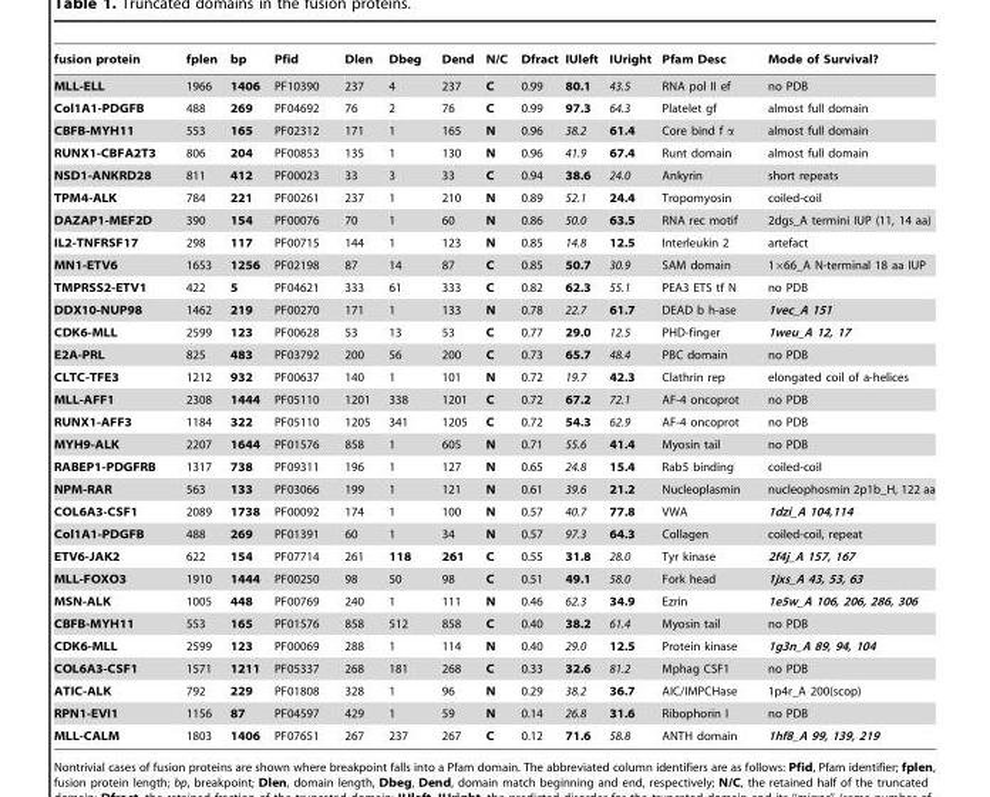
<table><thead><tr><td>fusion protein</td><td>fplen</td><td>bp</td><td>Pfid</td><td>Dlen</td><td>Dbeg</td><td>Dend</td><td>N/C</td><td>Dfract</td><td>IUleft</td><td>IUright</td><td>Pfam Desc</td><td>Mode of Survival?</td></tr></thead><tbody><tr><td>MLL-ELL</td><td>1966</td><td>1406</td><td>PF10390</td><td>237</td><td>4</td><td>237</td><td>C</td><td>0.99</td><td>80.1</td><td>43.5</td><td>RNA pol II ef</td><td>no PDB</td></tr><tr><td>Col1A1-PDGFB</td><td>488</td><td>269</td><td>PF04692</td><td>76</td><td>2</td><td>76</td><td>C</td><td>0.99</td><td>97.3</td><td>64.3</td><td>Platelet gf</td><td>almost full domain</td></tr><tr><td>CBFB-MYH11</td><td>553</td><td>165</td><td>PF02312</td><td>171</td><td>1</td><td>165</td><td>N</td><td>0.96</td><td>38.2</td><td>61.4</td><td>Core bind f α</td><td>almost full domain</td></tr><tr><td>RUNX1-CBFA2T3</td><td>806</td><td>204</td><td>PF00853</td><td>135</td><td>1</td><td>130</td><td>N</td><td>0.96</td><td>41.9</td><td>67.4</td><td>Runt domain</td><td>almost full domain</td></tr><tr><td>NSD1-ANKRD28</td><td>811</td><td>412</td><td>PF00023</td><td>33</td><td>3</td><td>33</td><td>C</td><td>0.94</td><td>38.6</td><td>24.0</td><td>Ankyrin</td><td>short repeats</td></tr><tr><td>TPM4-ALK</td><td>784</td><td>221</td><td>PF00261</td><td>237</td><td>1</td><td>210</td><td>N</td><td>0.89</td><td>52.1</td><td>24.4</td><td>Tropomyosin</td><td>coiled-coil</td></tr><tr><td>DAZAP1-MEF2D</td><td>390</td><td>154</td><td>PF00076</td><td>70</td><td>1</td><td>60</td><td>N</td><td>0.86</td><td>50.0</td><td>63.5</td><td>RNA rec motif</td><td>2dgs_A termini IUP (11, 14 aa)</td></tr><tr><td>IL2-TNFRSF17</td><td>298</td><td>117</td><td>PF00715</td><td>144</td><td>1</td><td>123</td><td>N</td><td>0.85</td><td>14.8</td><td>12.5</td><td>Interleukin 2</td><td>artefact</td></tr><tr><td>MN1-ETV6</td><td>1653</td><td>1256</td><td>PF02198</td><td>87</td><td>14</td><td>87</td><td>C</td><td>0.85</td><td>50.7</td><td>30.9</td><td>SAM domain</td><td>1×66_A N-terminal 18 aa IUP</td></tr><tr><td>TMPRSS2-ETV1</td><td>422</td><td>5</td><td>PF04621</td><td>333</td><td>61</td><td>333</td><td>C</td><td>0.82</td><td>62.3</td><td>55.1</td><td>PEA3 ETS tf N</td><td>no PDB</td></tr><tr><td>DDX10-NUP98</td><td>1462</td><td>219</td><td>PF00270</td><td>171</td><td>1</td><td>133</td><td>N</td><td>0.78</td><td>22.7</td><td>61.7</td><td>DEAD b h-ase</td><td>1vec_A 151</td></tr><tr><td>CDK6-MLL</td><td>2599</td><td>123</td><td>PF00628</td><td>53</td><td>13</td><td>53</td><td>C</td><td>0.77</td><td>29.0</td><td>12.5</td><td>PHD-finger</td><td>1weu_A 12, 17</td></tr><tr><td>E2A-PRL</td><td>825</td><td>483</td><td>PF03792</td><td>200</td><td>56</td><td>200</td><td>C</td><td>0.73</td><td>65.7</td><td>48.4</td><td>PBC domain</td><td>no PDB</td></tr><tr><td>CLTC-TFE3</td><td>1212</td><td>932</td><td>PF00637</td><td>140</td><td>1</td><td>101</td><td>N</td><td>0.72</td><td>19.7</td><td>42.3</td><td>Clathrin rep</td><td>elongated coil of a-helices</td></tr><tr><td>MLL-AFF1</td><td>2308</td><td>1444</td><td>PF05110</td><td>1201</td><td>338</td><td>1201</td><td>C</td><td>0.72</td><td>67.2</td><td>72.1</td><td>AF-4 oncoprot</td><td>no PDB</td></tr><tr><td>RUNX1-AFF3</td><td>1184</td><td>322</td><td>PF05110</td><td>1205</td><td>341</td><td>1205</td><td>C</td><td>0.72</td><td>54.3</td><td>62.9</td><td>AF-4 oncoprot</td><td>no PDB</td></tr><tr><td>MYH9-ALK</td><td>2207</td><td>1644</td><td>PF01576</td><td>858</td><td>1</td><td>605</td><td>N</td><td>0.71</td><td>55.6</td><td>41.4</td><td>Myosin tail</td><td>no PDB</td></tr><tr><td>RABEP1-PDGFRB</td><td>1317</td><td>738</td><td>PF09311</td><td>196</td><td>1</td><td>127</td><td>N</td><td>0.65</td><td>24.8</td><td>15.4</td><td>Rab5 binding</td><td>coiled-coil</td></tr><tr><td>NPM-RAR</td><td>563</td><td>133</td><td>PF03066</td><td>199</td><td>1</td><td>121</td><td>N</td><td>0.61</td><td>39.6</td><td>21.2</td><td>Nucleoplasmin</td><td>nucleophosmin 2p1b_H, 122 aa</td></tr><tr><td>COL6A3-CSF1</td><td>2089</td><td>1738</td><td>PF00092</td><td>174</td><td>1</td><td>100</td><td>N</td><td>0.57</td><td>40.7</td><td>77.8</td><td>VWA</td><td>1dzi_A 104,114</td></tr><tr><td>Col1A1-PDGFB</td><td>488</td><td>269</td><td>PF01391</td><td>60</td><td>1</td><td>34</td><td>N</td><td>0.57</td><td>97.3</td><td>64.3</td><td>Collagen</td><td>coiled-coil, repeat</td></tr><tr><td>ETV6-JAK2</td><td>622</td><td>154</td><td>PF07714</td><td>261</td><td>118</td><td>261</td><td>C</td><td>0.55</td><td>31.8</td><td>28.0</td><td>Tyr kinase</td><td>2f4j_A 157, 167</td></tr><tr><td>MLL-FOXO3</td><td>1910</td><td>1444</td><td>PF00250</td><td>98</td><td>50</td><td>98</td><td>C</td><td>0.51</td><td>49.1</td><td>58.0</td><td>Fork head</td><td>1jxs_A 43, 53, 63</td></tr><tr><td>MSN-ALK</td><td>1005</td><td>448</td><td>PF00769</td><td>240</td><td>1</td><td>111</td><td>N</td><td>0.46</td><td>62.3</td><td>34.9</td><td>Ezrin</td><td>1e5w_A 106, 206, 286, 306</td></tr><tr><td>CBFB-MYH11</td><td>553</td><td>165</td><td>PF01576</td><td>858</td><td>512</td><td>858</td><td>C</td><td>0.40</td><td>38.2</td><td>61.4</td><td>Myosin tail</td><td>no PDB</td></tr><tr><td>CDK6-MLL</td><td>2599</td><td>123</td><td>PF00069</td><td>288</td><td>1</td><td>114</td><td>N</td><td>0.40</td><td>29.0</td><td>12.5</td><td>Protein kinase</td><td>1g3n_A 89, 94, 104</td></tr><tr><td>COL6A3-CSF1</td><td>1571</td><td>1211</td><td>PF05337</td><td>268</td><td>181</td><td>268</td><td>C</td><td>0.33</td><td>32.6</td><td>81.2</td><td>Mphag CSF1</td><td>no PDB</td></tr><tr><td>ATIC-ALK</td><td>792</td><td>229</td><td>PF01808</td><td>328</td><td>1</td><td>96</td><td>N</td><td>0.29</td><td>38.2</td><td>36.7</td><td>AIC/IMPCHase</td><td>1p4r_A 200(scop)</td></tr><tr><td>RPN1-EVI1</td><td>1156</td><td>87</td><td>PF04597</td><td>429</td><td>1</td><td>59</td><td>N</td><td>0.14</td><td>26.8</td><td>31.6</td><td>Ribophorin I</td><td>no PDB</td></tr><tr><td>MLL-CALM</td><td>1803</td><td>1406</td><td>PF07651</td><td>267</td><td>237</td><td>267</td><td>C</td><td>0.12</td><td>71.6</td><td>58.8</td><td>ANTH domain</td><td>1hf8_A 99, 139, 219</td></tr></tbody></table>